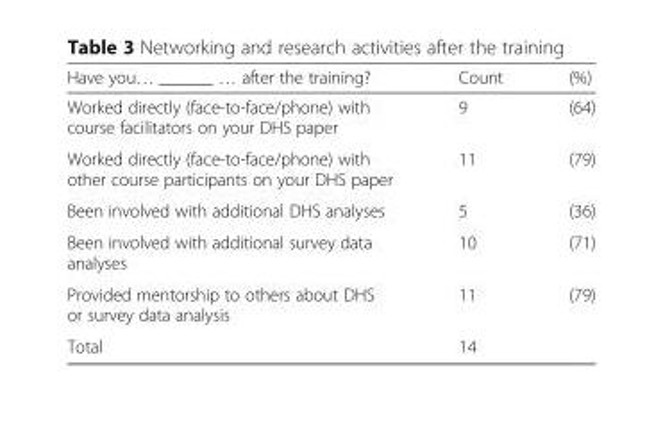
<table><thead><tr><td>Have you… ______ … after the training?</td><td>Count</td><td>(%)</td></tr></thead><tbody><tr><td>Worked directly (face-to-face/phone) with course facilitators on your DHS paper</td><td>9</td><td>(64)</td></tr><tr><td>Worked directly (face-to-face/phone) with other course participants on your DHS paper</td><td>11</td><td>(79)</td></tr><tr><td>Been involved with additional DHS analyses</td><td>5</td><td>(36)</td></tr><tr><td>Been involved with additional survey data analyses</td><td>10</td><td>(71)</td></tr><tr><td>Provided mentorship to others about DHS or survey data analysis</td><td>11</td><td>(79)</td></tr><tr><td>Total</td><td>14</td><td></td></tr></tbody></table>